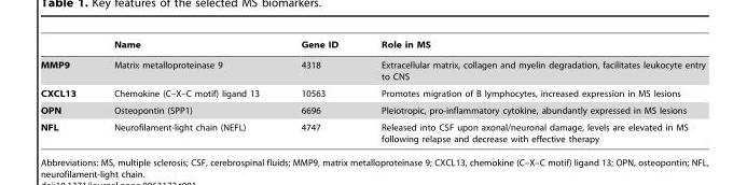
<table><thead><tr><td></td><td>Name</td><td>Gene ID</td><td>Role in MS</td></tr></thead><tbody><tr><td>MMP9</td><td>Matrix metalloproteinase 9</td><td>4318</td><td>Extracellular matrix, collagen and myelin degradation, facilitates leukocyte entry to CNS</td></tr><tr><td>CXCL13</td><td>Chemokine (C–X–C motif) ligand 13</td><td>10563</td><td>Promotes migration of B lymphocytes, increased expression in MS lesions</td></tr><tr><td>OPN</td><td>Osteopontin (SPP1)</td><td>6696</td><td>Pleiotropic, pro-inflammatory cytokine, abundantly expressed in MS lesions</td></tr><tr><td>NFL</td><td>Neurofilament-light chain (NEFL)</td><td>4747</td><td>Released into CSF upon axonal/neuronal damage, levels are elevated in MS following relapse and decrease with effective therapy</td></tr></tbody></table>